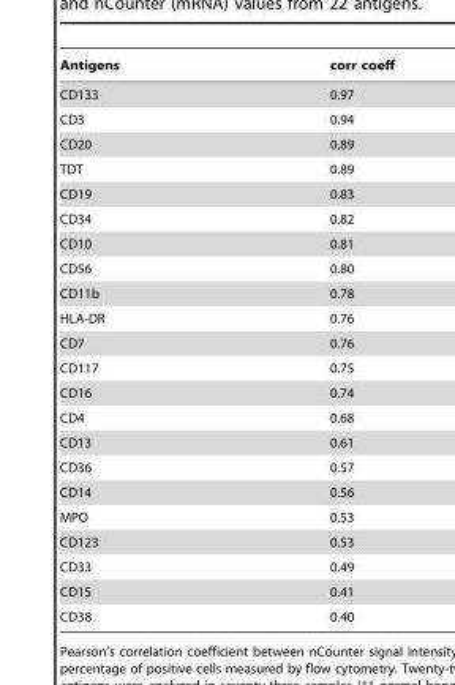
<table><thead><tr><td>Antigens</td><td>corr coeff</td></tr></thead><tbody><tr><td>CD133</td><td>0.97</td></tr><tr><td>CD3</td><td>0.94</td></tr><tr><td>CD20</td><td>0.89</td></tr><tr><td>TDT</td><td>0.89</td></tr><tr><td>CD19</td><td>0.83</td></tr><tr><td>CD34</td><td>0.82</td></tr><tr><td>CD10</td><td>0.81</td></tr><tr><td>CD56</td><td>0.80</td></tr><tr><td>CD11b</td><td>0.78</td></tr><tr><td>HLA-DR</td><td>0.76</td></tr><tr><td>CD7</td><td>0.76</td></tr><tr><td>CD117</td><td>0.75</td></tr><tr><td>CD16</td><td>0.74</td></tr><tr><td>CD4</td><td>0.68</td></tr><tr><td>CD13</td><td>0.61</td></tr><tr><td>CD36</td><td>0.57</td></tr><tr><td>CD14</td><td>0.56</td></tr><tr><td>MPO</td><td>0.53</td></tr><tr><td>CD123</td><td>0.53</td></tr><tr><td>CD33</td><td>0.49</td></tr><tr><td>CD15</td><td>0.41</td></tr><tr><td>CD38</td><td>0.40</td></tr></tbody></table>